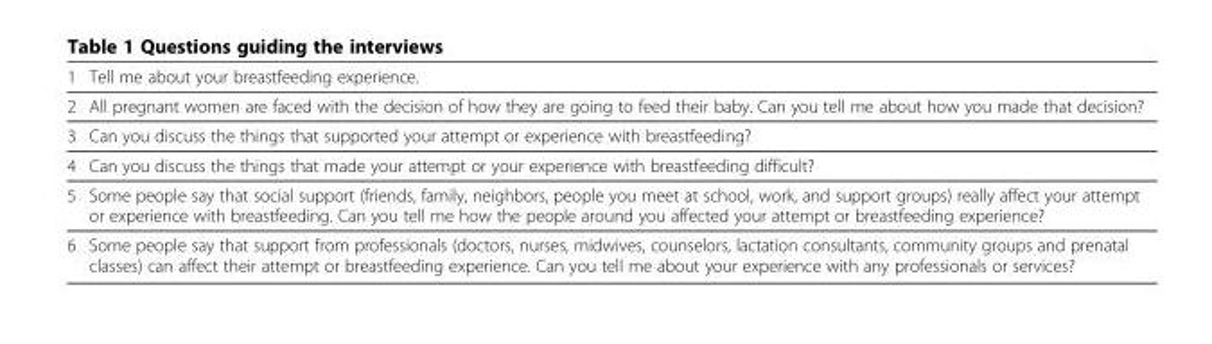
<table><tbody><tr><td>1</td><td>Tell me about your breastfeeding experience.</td></tr><tr><td>2</td><td>All pregnant women are faced with the decision of how they are going to feed their baby. Can you tell me about how you made that decision?</td></tr><tr><td>3</td><td>Can you discuss the things that supported your attempt or experience with breastfeeding?</td></tr><tr><td>4</td><td>Can you discuss the things that made your attempt or your experience with breastfeeding difficult?</td></tr><tr><td>5</td><td>Some people say that social support (friends, family, neighbors, people you meet at school, work, and support groups) really affect your attempt or experience with breastfeeding. Can you tell me how the people around you affected your attempt or breastfeeding experience?</td></tr><tr><td>6</td><td>Some people say that support from professionals (doctors, nurses, midwives, counselors, lactation consultants, community groups and prenatal classes) can affect their attempt or breastfeeding experience. Can you tell me about your experience with any professionals or services?</td></tr></tbody></table>